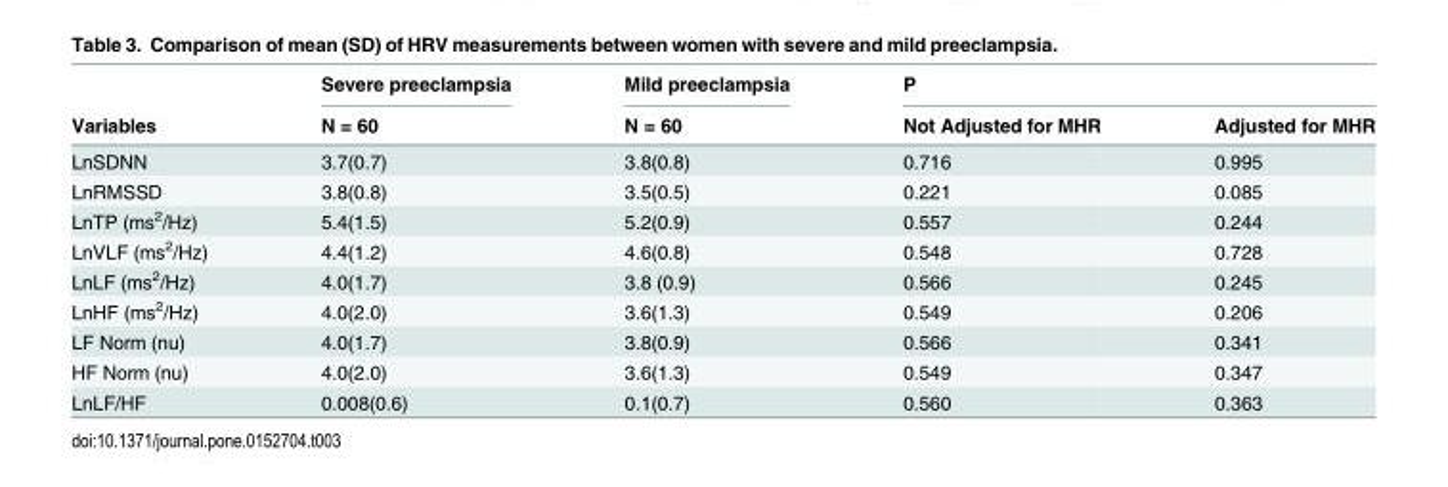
<table><thead><tr><td rowspan="2">Variables</td><td rowspan="2">Severe preeclampsia N = 60</td><td rowspan="2">Mild preeclampsia N = 60</td><td colspan="2">P</td></tr><tr><td>Not Adjusted for MHR</td><td>Adjusted for MHR</td></tr></thead><tbody><tr><td>LnSDNN</td><td>3.7(0.7)</td><td>3.8(0.8)</td><td>0.716</td><td>0.995</td></tr><tr><td>LnRMSSD</td><td>3.8(0.8)</td><td>3.5(0.5)</td><td>0.221</td><td>0.085</td></tr><tr><td>LnTP (ms<sup>2</sup>/Hz)</td><td>5.4(1.5)</td><td>5.2(0.9)</td><td>0.557</td><td>0.244</td></tr><tr><td>LnVLF (ms<sup>2</sup>/Hz)</td><td>4.4(1.2)</td><td>4.6(0.8)</td><td>0.548</td><td>0.728</td></tr><tr><td>LnLF (ms<sup>2</sup>/Hz)</td><td>4.0(1.7)</td><td>3.8 (0.9)</td><td>0.566</td><td>0.245</td></tr><tr><td>LnHF (ms<sup>2</sup>/Hz)</td><td>4.0(2.0)</td><td>3.6(1.3)</td><td>0.549</td><td>0.206</td></tr><tr><td>LF Norm (nu)</td><td>4.0(1.7)</td><td>3.8(0.9)</td><td>0.566</td><td>0.341</td></tr><tr><td>HF Norm (nu)</td><td>4.0(2.0)</td><td>3.6(1.3)</td><td>0.549</td><td>0.347</td></tr><tr><td>LnLF/HF</td><td>0.008(0.6)</td><td>0.1(0.7)</td><td>0.560</td><td>0.363</td></tr></tbody></table>